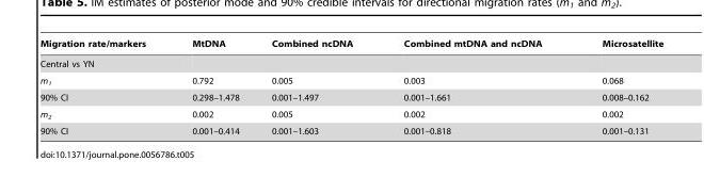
<table><thead><tr><td>Migration rate/markers</td><td>MtDNA</td><td>Combined ncDNA</td><td>Combined mtDNA and ncDNA</td><td>Microsatellite</td></tr></thead><tbody><tr><td colspan="5">Central vs YN</td></tr><tr><td>m<sub>1</sub></td><td>0.792</td><td>0.005</td><td>0.003</td><td>0.068</td></tr><tr><td>90% CI</td><td>0.298–1.478</td><td>0.001–1.497</td><td>0.001–1.661</td><td>0.008–0.162</td></tr><tr><td>m<sub>2</sub></td><td>0.002</td><td>0.005</td><td>0.002</td><td>0.002</td></tr><tr><td>90% CI</td><td>0.001–0.414</td><td>0.001–1.603</td><td>0.001–0.818</td><td>0.001–0.131</td></tr></tbody></table>